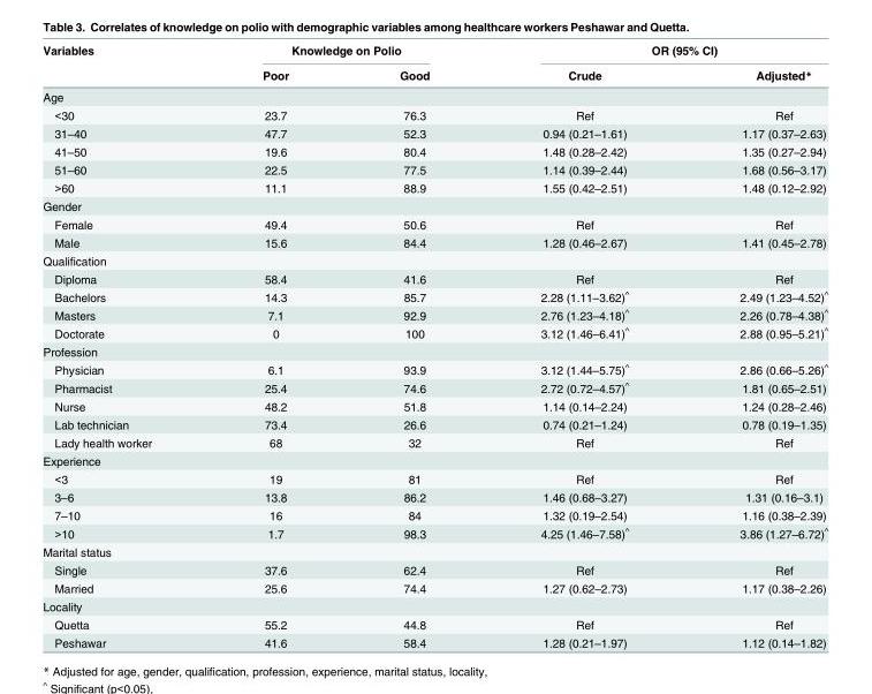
<table><thead><tr><td rowspan="2">Variables</td><td colspan="2">Knowledge on Polio</td><td colspan="2">OR (95% CI)</td></tr><tr><td>Poor</td><td>Good</td><td>Crude</td><td>Adjusted*</td></tr></thead><tbody><tr><td colspan="5">Age</td></tr><tr><td>&lt;30</td><td>23.7</td><td>76.3</td><td>Ref</td><td>Ref</td></tr><tr><td>31–40</td><td>47.7</td><td>52.3</td><td>0.94 (0.21–1.61)</td><td>1.17 (0.37–2.63)</td></tr><tr><td>41–50</td><td>19.6</td><td>80.4</td><td>1.48 (0.28–2.42)</td><td>1.35 (0.27–2.94)</td></tr><tr><td>51–60</td><td>22.5</td><td>77.5</td><td>1.14 (0.39–2.44)</td><td>1.68 (0.56–3.17)</td></tr><tr><td>&gt;60</td><td>11.1</td><td>88.9</td><td>1.55 (0.42–2.51)</td><td>1.48 (0.12–2.92)</td></tr><tr><td colspan="5">Gender</td></tr><tr><td>Female</td><td>49.4</td><td>50.6</td><td>Ref</td><td>Ref</td></tr><tr><td>Male</td><td>15.6</td><td>84.4</td><td>1.28 (0.46–2.67)</td><td>1.41 (0.45–2.78)</td></tr><tr><td colspan="5">Qualification</td></tr><tr><td>Diploma</td><td>58.4</td><td>41.6</td><td>Ref</td><td>Ref</td></tr><tr><td>Bachelors</td><td>14.3</td><td>85.7</td><td>2.28 (1.11–3.62)<sup>^</sup></td><td>2.49 (1.23–4.52)<sup>^</sup></td></tr><tr><td>Masters</td><td>7.1</td><td>92.9</td><td>2.76 (1.23–4.18)<sup>^</sup></td><td>2.26 (0.78–4.38)<sup>^</sup></td></tr><tr><td>Doctorate</td><td>0</td><td>100</td><td>3.12 (1.46–6.41)<sup>^</sup></td><td>2.88 (0.95–5.21)<sup>^</sup></td></tr><tr><td colspan="5">Profession</td></tr><tr><td>Physician</td><td>6.1</td><td>93.9</td><td>3.12 (1.44–5.75)<sup>^</sup></td><td>2.86 (0.66–5.26)<sup>^</sup></td></tr><tr><td>Pharmacist</td><td>25.4</td><td>74.6</td><td>2.72 (0.72–4.57)<sup>^</sup></td><td>1.81 (0.65–2.51)</td></tr><tr><td>Nurse</td><td>48.2</td><td>51.8</td><td>1.14 (0.14–2.24)</td><td>1.24 (0.28–2.46)</td></tr><tr><td>Lab technician</td><td>73.4</td><td>26.6</td><td>0.74 (0.21–1.24)</td><td>0.78 (0.19–1.35)</td></tr><tr><td>Lady health worker</td><td>68</td><td>32</td><td>Ref</td><td>Ref</td></tr><tr><td colspan="5">Experience</td></tr><tr><td>&lt;3</td><td>19</td><td>81</td><td>Ref</td><td>Ref</td></tr><tr><td>3–6</td><td>13.8</td><td>86.2</td><td>1.46 (0.68–3.27)</td><td>1.31 (0.16–3.1)</td></tr><tr><td>7–10</td><td>16</td><td>84</td><td>1.32 (0.19–2.54)</td><td>1.16 (0.38–2.39)</td></tr><tr><td>&gt;10</td><td>1.7</td><td>98.3</td><td>4.25 (1.46–7.58)<sup>^</sup></td><td>3.86 (1.27–6.72)<sup>^</sup></td></tr><tr><td colspan="5">Marital status</td></tr><tr><td>Single</td><td>37.6</td><td>62.4</td><td>Ref</td><td>Ref</td></tr><tr><td>Married</td><td>25.6</td><td>74.4</td><td>1.27 (0.62–2.73)</td><td>1.17 (0.38–2.26)</td></tr><tr><td colspan="5">Locality</td></tr><tr><td>Quetta</td><td>55.2</td><td>44.8</td><td>Ref</td><td>Ref</td></tr><tr><td>Peshawar</td><td>41.6</td><td>58.4</td><td>1.28 (0.21–1.97)</td><td>1.12 (0.14–1.82)</td></tr></tbody></table>